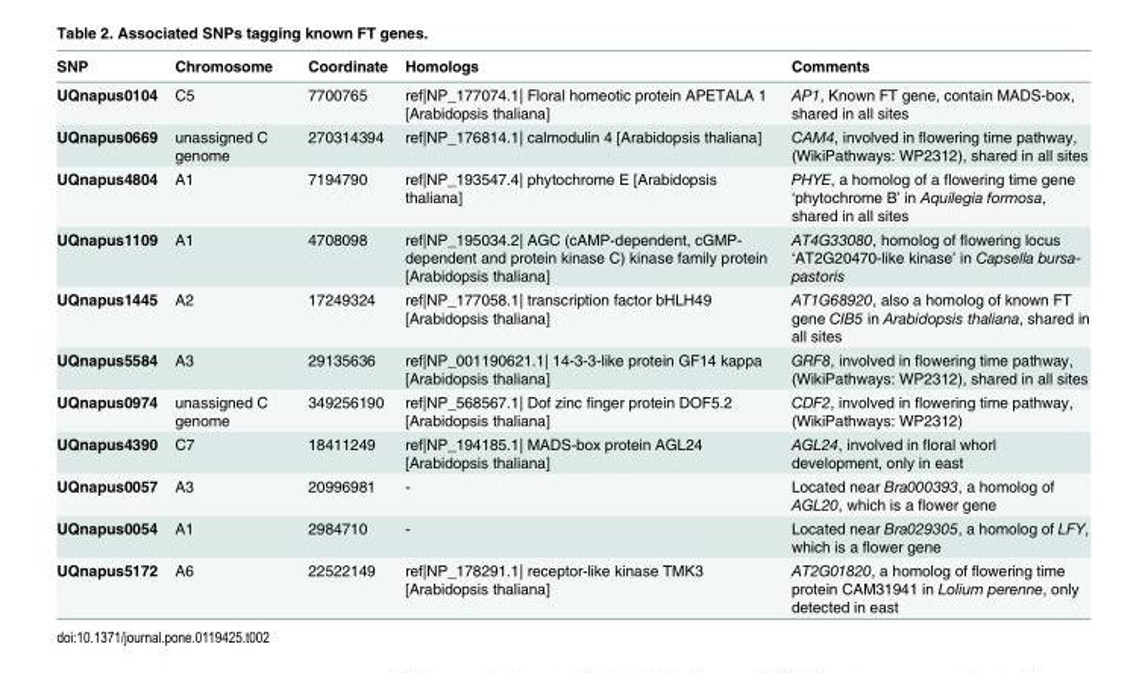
<table><thead><tr><td>SNP</td><td>Chromosome</td><td>Coordinate</td><td>Homologs</td><td>Comments</td></tr></thead><tbody><tr><td>UQnapus0104</td><td>C5</td><td>7700765</td><td>ref|NP_177074.1| Floral homeotic protein APETALA 1 [Arabidopsis thaliana]</td><td>AP1, Known FT gene, contain MADS-box, shared in all sites</td></tr><tr><td>UQnapus0669</td><td>unassigned C genome</td><td>270314394</td><td>ref|NP_176814.1| calmodulin 4 [Arabidopsis thaliana]</td><td>CAM4, involved in flowering time pathway, (WikiPathways: WP2312), shared in all sites</td></tr><tr><td>UQnapus4804</td><td>A1</td><td>7194790</td><td>ref|NP_193547.4| phytochrome E [Arabidopsis thaliana]</td><td>PHYE, a homolog of a flowering time gene ‘phytochrome B’ in Aquilegia formosa, shared in all sites</td></tr><tr><td>UQnapus1109</td><td>A1</td><td>4708098</td><td>ref|NP_195034.2| AGC (cAMP-dependent, cGMP- dependent and protein kinase C) kinase family protein [Arabidopsis thaliana]</td><td>AT4G33080, homolog of flowering locus ‘AT2G20470-like kinase’ in Capsella bursa- pastoris</td></tr><tr><td>UQnapus1445</td><td>A2</td><td>17249324</td><td>ref|NP_177058.1| transcription factor bHLH49 [Arabidopsis thaliana]</td><td>AT1G68920, also a homolog of known FT gene CIB5 in Arabidopsis thaliana, shared in all sites</td></tr><tr><td>UQnapus5584</td><td>A3</td><td>29135636</td><td>ref|NP_001190621.1| 14-3-3-like protein GF14 kappa [Arabidopsis thaliana]</td><td>GRF8, involved in flowering time pathway, (WikiPathways: WP2312), shared in all sites</td></tr><tr><td>UQnapus0974</td><td>unassigned C genome</td><td>349256190</td><td>ref|NP_568567.1| Dof zinc finger protein DOF5.2 [Arabidopsis thaliana]</td><td>CDF2, involved in flowering time pathway, (WikiPathways: WP2312)</td></tr><tr><td>UQnapus4390</td><td>C7</td><td>18411249</td><td>ref|NP_194185.1| MADS-box protein AGL24 [Arabidopsis thaliana]</td><td>AGL24, involved in floral whorl development, only in east</td></tr><tr><td>UQnapus0057</td><td>A3</td><td>20996981</td><td>-</td><td>Located near Bra000393, a homolog of AGL20, which is a flower gene</td></tr><tr><td>UQnapus0054</td><td>A1</td><td>2984710</td><td>-</td><td>Located near Bra029305, a homolog of LFY, which is a flower gene</td></tr><tr><td>UQnapus5172</td><td>A6</td><td>22522149</td><td>ref|NP_178291.1| receptor-like kinase TMK3 [Arabidopsis thaliana]</td><td>AT2G01820, a homolog of flowering time protein CAM31941 in Lolium perenne, only detected in east</td></tr></tbody></table>